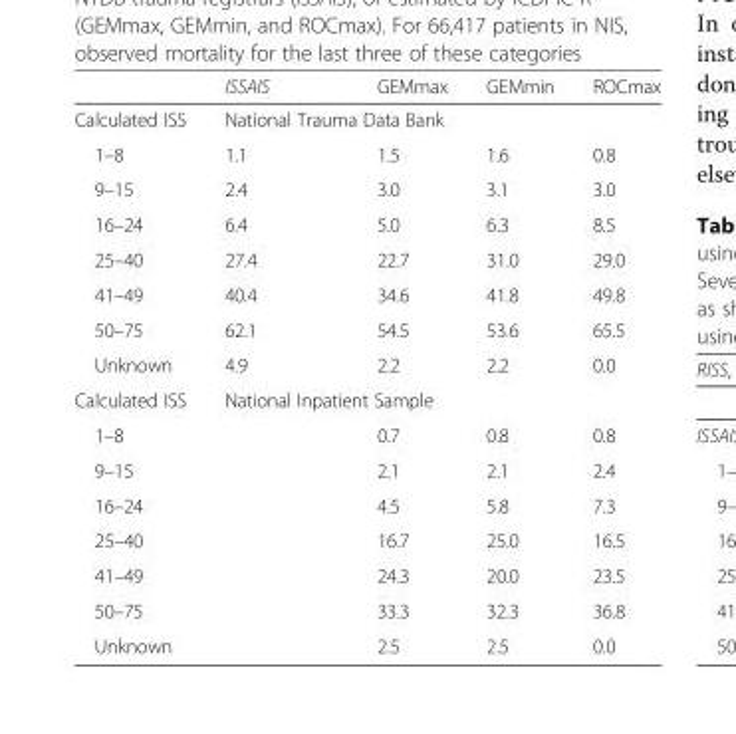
<table><thead><tr><td></td><td>ISSAIS</td><td>GEMmax</td><td>GEMmin</td><td>ROCmax</td></tr></thead><tbody><tr><td>Calculated ISS</td><td colspan="4">National Trauma Data Bank</td></tr><tr><td>1–8</td><td>1.1</td><td>1.5</td><td>1.6</td><td>0.8</td></tr><tr><td>9–15</td><td>2.4</td><td>3.0</td><td>3.1</td><td>3.0</td></tr><tr><td>16–24</td><td>6.4</td><td>5.0</td><td>6.3</td><td>8.5</td></tr><tr><td>25–40</td><td>27.4</td><td>22.7</td><td>31.0</td><td>29.0</td></tr><tr><td>41–49</td><td>40.4</td><td>34.6</td><td>41.8</td><td>49.8</td></tr><tr><td>50–75</td><td>62.1</td><td>54.5</td><td>53.6</td><td>65.5</td></tr><tr><td>Unknown</td><td>4.9</td><td>2.2</td><td>2.2</td><td>0.0</td></tr><tr><td>Calculated ISS</td><td colspan="4">National Inpatient Sample</td></tr><tr><td>1–8</td><td></td><td>0.7</td><td>0.8</td><td>0.8</td></tr><tr><td>9–15</td><td></td><td>2.1</td><td>2.1</td><td>2.4</td></tr><tr><td>16–24</td><td></td><td>4.5</td><td>5.8</td><td>7.3</td></tr><tr><td>25–40</td><td></td><td>16.7</td><td>25.0</td><td>16.5</td></tr><tr><td>41–49</td><td></td><td>24.3</td><td>20.0</td><td>23.5</td></tr><tr><td>50–75</td><td></td><td>33.3</td><td>32.3</td><td>36.8</td></tr><tr><td>Unknown</td><td></td><td>2.5</td><td>2.5</td><td>0.0</td></tr></tbody></table>